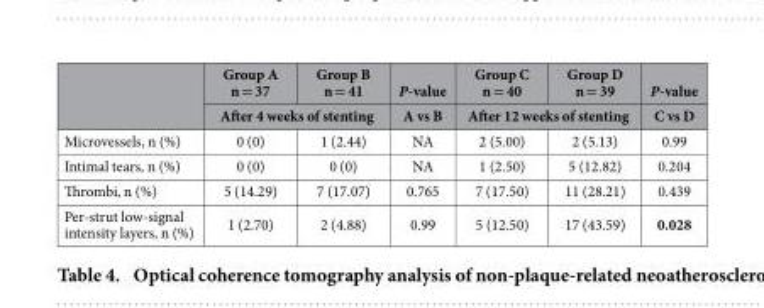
<table><thead><tr><td rowspan="2"></td><td>Group A n = 37</td><td>Group B n = 41</td><td rowspan="2">P-value A vs B</td><td>Group C n = 40</td><td>Group D n = 39</td><td rowspan="2">P-value C vs D</td></tr><tr><td colspan="2">After 4 weeks of stenting</td><td colspan="2">After 12 weeks of stenting</td></tr></thead><tbody><tr><td>Microvessels, n (%)</td><td>0 (0)</td><td>1 (2.44)</td><td>NA</td><td>2 (5.00)</td><td>2 (5.13)</td><td>0.99</td></tr><tr><td>Intimal tears, n (%)</td><td>0 (0)</td><td>0 (0)</td><td>NA</td><td>1 (2.50)</td><td>5 (12.82)</td><td>0.204</td></tr><tr><td>Thrombi, n (%)</td><td>5 (14.29)</td><td>7 (17.07)</td><td>0.765</td><td>7 (17.50)</td><td>11 (28.21)</td><td>0.439</td></tr><tr><td>Per-strut low-signal intensity layers, n (%)</td><td>1 (2.70)</td><td>2 (4.88)</td><td>0.99</td><td>5 (12.50)</td><td>17 (43.59)</td><td>0.028</td></tr></tbody></table>